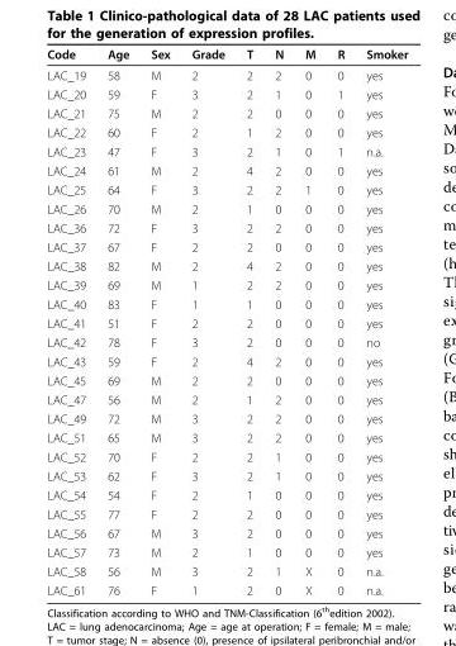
<table><thead><tr><td>Code</td><td>Age</td><td>Sex</td><td>Grade</td><td>T</td><td>N</td><td>M</td><td>R</td><td>Smoker</td></tr></thead><tbody><tr><td>LAC_19</td><td>58</td><td>M</td><td>2</td><td>2</td><td>2</td><td>0</td><td>0</td><td>yes</td></tr><tr><td>LAC_20</td><td>59</td><td>F</td><td>3</td><td>2</td><td>1</td><td>0</td><td>1</td><td>yes</td></tr><tr><td>LAC_21</td><td>75</td><td>M</td><td>2</td><td>2</td><td>0</td><td>0</td><td>0</td><td>yes</td></tr><tr><td>LAC_22</td><td>60</td><td>F</td><td>2</td><td>1</td><td>2</td><td>0</td><td>0</td><td>yes</td></tr><tr><td>LAC_23</td><td>47</td><td>F</td><td>3</td><td>2</td><td>1</td><td>0</td><td>1</td><td>n.a.</td></tr><tr><td>LAC_24</td><td>61</td><td>M</td><td>2</td><td>4</td><td>2</td><td>0</td><td>0</td><td>yes</td></tr><tr><td>LAC_25</td><td>64</td><td>F</td><td>3</td><td>2</td><td>2</td><td>1</td><td>0</td><td>yes</td></tr><tr><td>LAC_26</td><td>70</td><td>M</td><td>2</td><td>1</td><td>0</td><td>0</td><td>0</td><td>yes</td></tr><tr><td>LAC_36</td><td>72</td><td>F</td><td>3</td><td>2</td><td>2</td><td>0</td><td>0</td><td>yes</td></tr><tr><td>LAC_37</td><td>67</td><td>F</td><td>2</td><td>2</td><td>0</td><td>0</td><td>0</td><td>yes</td></tr><tr><td>LAC_38</td><td>82</td><td>M</td><td>2</td><td>4</td><td>2</td><td>0</td><td>0</td><td>yes</td></tr><tr><td>LAC_39</td><td>69</td><td>M</td><td>1</td><td>2</td><td>2</td><td>0</td><td>0</td><td>yes</td></tr><tr><td>LAC_40</td><td>83</td><td>F</td><td>1</td><td>1</td><td>0</td><td>0</td><td>0</td><td>yes</td></tr><tr><td>LAC_41</td><td>51</td><td>F</td><td>2</td><td>2</td><td>0</td><td>0</td><td>0</td><td>yes</td></tr><tr><td>LAC_42</td><td>78</td><td>F</td><td>3</td><td>2</td><td>0</td><td>0</td><td>0</td><td>no</td></tr><tr><td>LAC_43</td><td>59</td><td>F</td><td>2</td><td>4</td><td>2</td><td>0</td><td>0</td><td>yes</td></tr><tr><td>LAC_45</td><td>69</td><td>M</td><td>2</td><td>2</td><td>0</td><td>0</td><td>0</td><td>yes</td></tr><tr><td>LAC_47</td><td>56</td><td>M</td><td>2</td><td>1</td><td>2</td><td>0</td><td>0</td><td>yes</td></tr><tr><td>LAC_49</td><td>72</td><td>M</td><td>3</td><td>2</td><td>2</td><td>0</td><td>0</td><td>yes</td></tr><tr><td>LAC_51</td><td>65</td><td>M</td><td>3</td><td>2</td><td>2</td><td>0</td><td>0</td><td>yes</td></tr><tr><td>LAC_52</td><td>70</td><td>F</td><td>2</td><td>2</td><td>1</td><td>0</td><td>0</td><td>yes</td></tr><tr><td>LAC_53</td><td>62</td><td>F</td><td>3</td><td>2</td><td>1</td><td>0</td><td>0</td><td>yes</td></tr><tr><td>LAC_54</td><td>54</td><td>F</td><td>2</td><td>1</td><td>0</td><td>0</td><td>0</td><td>yes</td></tr><tr><td>LAC_55</td><td>77</td><td>F</td><td>2</td><td>2</td><td>0</td><td>0</td><td>0</td><td>yes</td></tr><tr><td>LAC_56</td><td>67</td><td>M</td><td>3</td><td>2</td><td>0</td><td>0</td><td>0</td><td>yes</td></tr><tr><td>LAC_57</td><td>73</td><td>M</td><td>2</td><td>1</td><td>0</td><td>0</td><td>0</td><td>yes</td></tr><tr><td>LAC_58</td><td>56</td><td>M</td><td>3</td><td>2</td><td>1</td><td>X</td><td>0</td><td>n.a.</td></tr><tr><td>LAC_61</td><td>76</td><td>F</td><td>1</td><td>2</td><td>0</td><td>X</td><td>0</td><td>n.a.</td></tr></tbody></table>